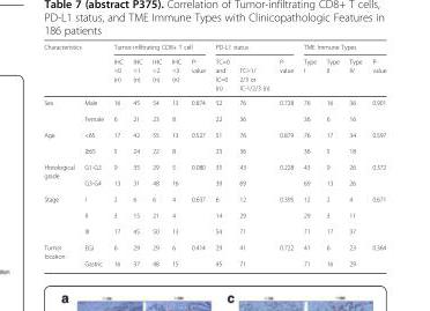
<table><thead><tr><td colspan="2">Characteristics</td><td colspan="5">Tumor-infiltrating CD8+ T cell</td><td colspan="3">PD-L1 status</td><td colspan="4">TME Immune Types</td></tr><tr><td></td><td></td><td>IHC =0 (n)</td><td>IHC =1 (n)</td><td>IHC =2 (n)</td><td>IHC =3 (n(</td><td>P- value</td><td>TC=0 and IC=0 (n)</td><td>TC=1/ 2/3 or IC-1/2/3 (n)</td><td>P- value</td><td>Type I</td><td>Type II</td><td>Type IV</td><td>P- value</td></tr></thead><tbody><tr><td rowspan="2">Sex</td><td>Male</td><td>16</td><td>45</td><td>54</td><td>13</td><td>0.874</td><td>52</td><td>76</td><td>0.728</td><td>76</td><td>16</td><td>36</td><td>0.901</td></tr><tr><td>Female</td><td>6</td><td>21</td><td>23</td><td>8</td><td></td><td>22</td><td>36</td><td></td><td>36</td><td>6</td><td>16</td><td></td></tr><tr><td rowspan="2">Age</td><td>&lt;65</td><td>17</td><td>42</td><td>55</td><td>13</td><td>0.527</td><td>51</td><td>76</td><td>0.879</td><td>76</td><td>17</td><td>34</td><td>0.597</td></tr><tr><td>≥65</td><td>5</td><td>24</td><td>22</td><td>8</td><td></td><td>23</td><td>36</td><td></td><td>36</td><td>5</td><td>18</td><td></td></tr><tr><td rowspan="2">Histological grade</td><td>G1-G2</td><td>9</td><td>35</td><td>29</td><td>5</td><td>0.080</td><td>35</td><td>43</td><td>0.228</td><td>43</td><td>9</td><td>26</td><td>0.372</td></tr><tr><td>G3-G4</td><td>13</td><td>31</td><td>48</td><td>16</td><td></td><td>39</td><td>69</td><td></td><td>69</td><td>13</td><td>26</td><td></td></tr><tr><td rowspan="3">Stage</td><td>I</td><td>2</td><td>6</td><td>6</td><td>4</td><td>0.637</td><td>6</td><td>12</td><td>0.395</td><td>12</td><td>2</td><td>4</td><td>0.671</td></tr><tr><td>II</td><td>3</td><td>15</td><td>21</td><td>4</td><td></td><td>14</td><td>29</td><td></td><td>29</td><td>3</td><td>11</td><td></td></tr><tr><td>III</td><td>17</td><td>45</td><td>50</td><td>13</td><td></td><td>54</td><td>71</td><td></td><td>71</td><td>17</td><td>37</td><td></td></tr><tr><td rowspan="2">Tumor location</td><td>EGJ</td><td>6</td><td>29</td><td>29</td><td>6</td><td>0.414</td><td>29</td><td>41</td><td>0.722</td><td>41</td><td>6</td><td>23</td><td>0.364</td></tr><tr><td>Gastric</td><td>16</td><td>37</td><td>48</td><td>15</td><td></td><td>45</td><td>71</td><td></td><td>71</td><td>16</td><td>29</td><td></td></tr></tbody></table>